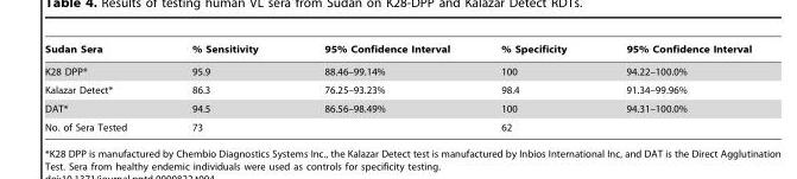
<table><thead><tr><td>Sudan Sera</td><td>% Sensitivity</td><td>95% Confidence Interval</td><td>% Specificity</td><td>95% Confidence Interval</td></tr></thead><tbody><tr><td>K28 DPP*</td><td>95.9</td><td>88.46–99.14%</td><td>100</td><td>94.22–100.0%</td></tr><tr><td>Kalazar Detect*</td><td>86.3</td><td>76.25–93.23%</td><td>98.4</td><td>91.34–99.96%</td></tr><tr><td>DAT*</td><td>94.5</td><td>86.56–98.49%</td><td>100</td><td>94.31–100.0%</td></tr><tr><td>No. of Sera Tested</td><td>73</td><td></td><td>62</td><td></td></tr></tbody></table>